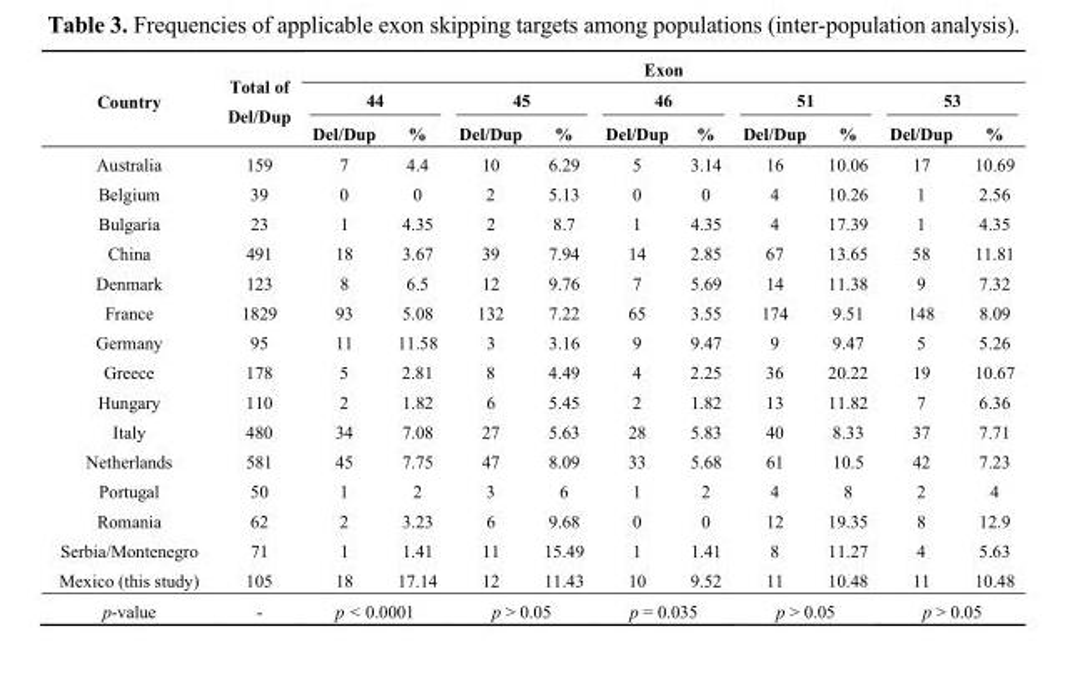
<table><thead><tr><td rowspan="3">Country</td><td rowspan="3">Total of Del/Dup</td><td colspan="10">Exon</td></tr><tr><td colspan="2">44</td><td colspan="2">45</td><td colspan="2">46</td><td colspan="2">51</td><td colspan="2">53</td></tr><tr><td>Del/Dup</td><td>%</td><td>Del/Dup</td><td>%</td><td>Del/Dup</td><td>%</td><td>Del/Dup</td><td>%</td><td>Del/Dup</td><td>%</td></tr></thead><tbody><tr><td>Australia</td><td>159</td><td>7</td><td>4.4</td><td>10</td><td>6.29</td><td>5</td><td>3.14</td><td>16</td><td>10.06</td><td>17</td><td>10.69</td></tr><tr><td>Belgium</td><td>39</td><td>0</td><td>0</td><td>2</td><td>5.13</td><td>0</td><td>0</td><td>4</td><td>10.26</td><td>1</td><td>2.56</td></tr><tr><td>Bulgaria</td><td>23</td><td>1</td><td>4.35</td><td>2</td><td>8.7</td><td>1</td><td>4.35</td><td>4</td><td>17.39</td><td>1</td><td>4.35</td></tr><tr><td>China</td><td>491</td><td>18</td><td>3.67</td><td>39</td><td>7.94</td><td>14</td><td>2.85</td><td>67</td><td>13.65</td><td>58</td><td>11.81</td></tr><tr><td>Denmark</td><td>123</td><td>8</td><td>6.5</td><td>12</td><td>9.76</td><td>7</td><td>5.69</td><td>14</td><td>11.38</td><td>9</td><td>7.32</td></tr><tr><td>France</td><td>1829</td><td>93</td><td>5.08</td><td>132</td><td>7.22</td><td>65</td><td>3.55</td><td>174</td><td>9.51</td><td>148</td><td>8.09</td></tr><tr><td>Germany</td><td>95</td><td>11</td><td>11.58</td><td>3</td><td>3.16</td><td>9</td><td>9.47</td><td>9</td><td>9.47</td><td>5</td><td>5.26</td></tr><tr><td>Greece</td><td>178</td><td>5</td><td>2.81</td><td>8</td><td>4.49</td><td>4</td><td>2.25</td><td>36</td><td>20.22</td><td>19</td><td>10.67</td></tr><tr><td>Hungary</td><td>110</td><td>2</td><td>1.82</td><td>6</td><td>5.45</td><td>2</td><td>1.82</td><td>13</td><td>11.82</td><td>7</td><td>6.36</td></tr><tr><td>Italy</td><td>480</td><td>34</td><td>7.08</td><td>27</td><td>5.63</td><td>28</td><td>5.83</td><td>40</td><td>8.33</td><td>37</td><td>7.71</td></tr><tr><td>Netherlands</td><td>581</td><td>45</td><td>7.75</td><td>47</td><td>8.09</td><td>33</td><td>5.68</td><td>61</td><td>10.5</td><td>42</td><td>7.23</td></tr><tr><td>Portugal</td><td>50</td><td>1</td><td>2</td><td>3</td><td>6</td><td>1</td><td>2</td><td>4</td><td>8</td><td>2</td><td>4</td></tr><tr><td>Romania</td><td>62</td><td>2</td><td>3.23</td><td>6</td><td>9.68</td><td>0</td><td>0</td><td>12</td><td>19.35</td><td>8</td><td>12.9</td></tr><tr><td>Serbia/Montenegro</td><td>71</td><td>1</td><td>1.41</td><td>11</td><td>15.49</td><td>1</td><td>1.41</td><td>8</td><td>11.27</td><td>4</td><td>5.63</td></tr><tr><td>Mexico (this study)</td><td>105</td><td>18</td><td>17.14</td><td>12</td><td>11.43</td><td>10</td><td>9.52</td><td>11</td><td>10.48</td><td>11</td><td>10.48</td></tr><tr><td>p-value</td><td>-</td><td colspan="2">p &lt; 0.0001</td><td colspan="2">p &gt; 0.05</td><td colspan="2">p = 0.035</td><td colspan="2">p &gt; 0.05</td><td colspan="2">p &gt; 0.05</td></tr></tbody></table>